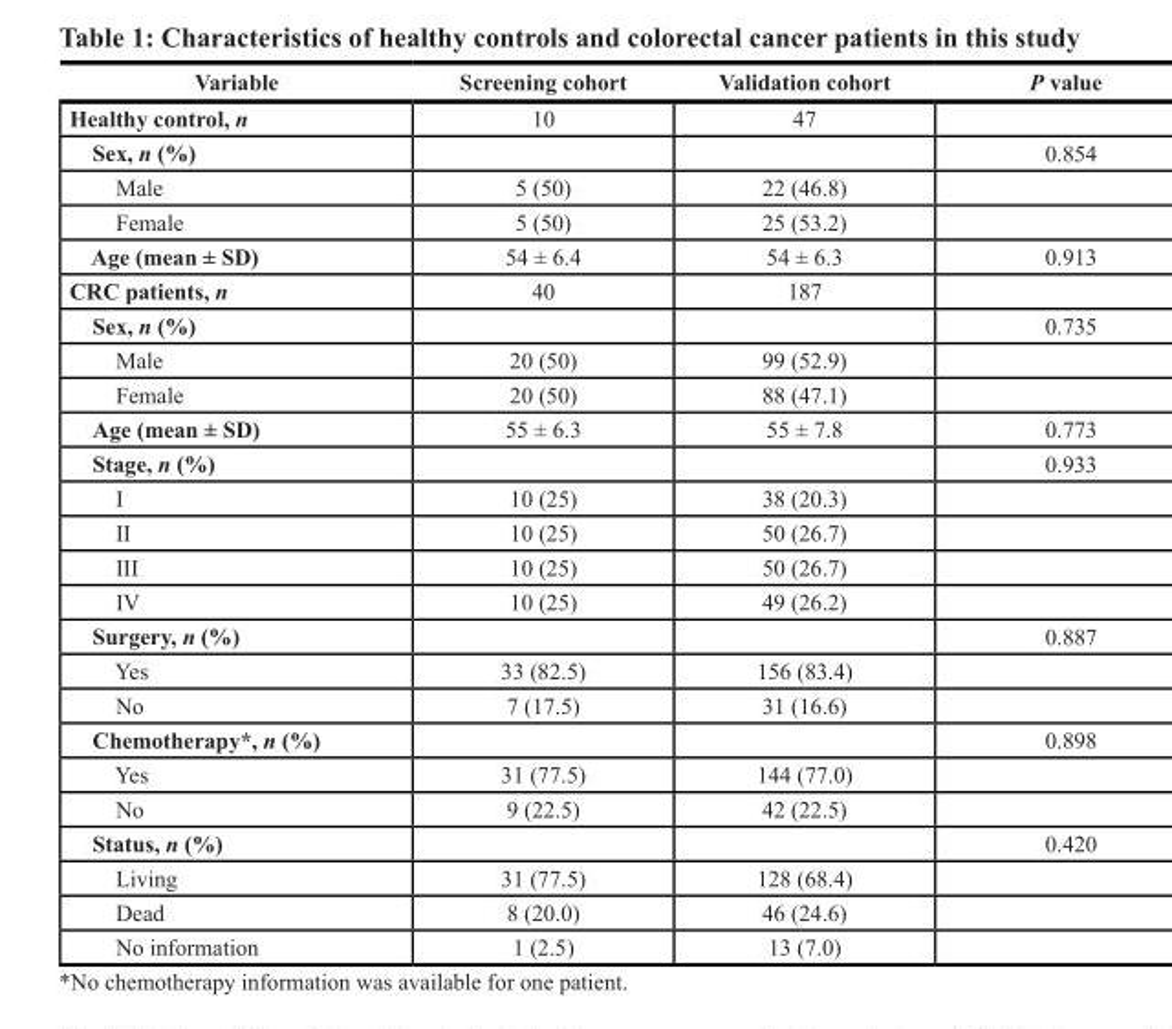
<table><thead><tr><td>Variable</td><td>Screening cohort</td><td>Validation cohort</td><td>P value</td></tr></thead><tbody><tr><td>Healthy control, n</td><td>10</td><td>47</td><td></td></tr><tr><td>Sex, n (%)</td><td></td><td></td><td>0.854</td></tr><tr><td>Male</td><td>5 (50)</td><td>22 (46.8)</td><td></td></tr><tr><td>Female</td><td>5 (50)</td><td>25 (53.2)</td><td></td></tr><tr><td>Age (mean ± SD)</td><td>54 ± 6.4</td><td>54 ± 6.3</td><td>0.913</td></tr><tr><td>CRC patients, n</td><td>40</td><td>187</td><td></td></tr><tr><td>Sex, n (%)</td><td></td><td></td><td>0.735</td></tr><tr><td>Male</td><td>20 (50)</td><td>99 (52.9)</td><td></td></tr><tr><td>Female</td><td>20 (50)</td><td>88 (47.1)</td><td></td></tr><tr><td>Age (mean ± SD)</td><td>55 ± 6.3</td><td>55 ± 7.8</td><td>0.773</td></tr><tr><td>Stage, n (%)</td><td></td><td></td><td>0.933</td></tr><tr><td>I</td><td>10 (25)</td><td>38 (20.3)</td><td></td></tr><tr><td>II</td><td>10 (25)</td><td>50 (26.7)</td><td></td></tr><tr><td>III</td><td>10 (25)</td><td>50 (26.7)</td><td></td></tr><tr><td>IV</td><td>10 (25)</td><td>49 (26.2)</td><td></td></tr><tr><td>Surgery, n (%)</td><td></td><td></td><td>0.887</td></tr><tr><td>Yes</td><td>33 (82.5)</td><td>156 (83.4)</td><td></td></tr><tr><td>No</td><td>7 (17.5)</td><td>31 (16.6)</td><td></td></tr><tr><td>Chemotherapy*, n (%)</td><td></td><td></td><td>0.898</td></tr><tr><td>Yes</td><td>31 (77.5)</td><td>144 (77.0)</td><td></td></tr><tr><td>No</td><td>9 (22.5)</td><td>42 (22.5)</td><td></td></tr><tr><td>Status, n (%)</td><td></td><td></td><td>0.420</td></tr><tr><td>Living</td><td>31 (77.5)</td><td>128 (68.4)</td><td></td></tr><tr><td>Dead</td><td>8 (20.0)</td><td>46 (24.6)</td><td></td></tr><tr><td>No information</td><td>1 (2.5)</td><td>13 (7.0)</td><td></td></tr></tbody></table>